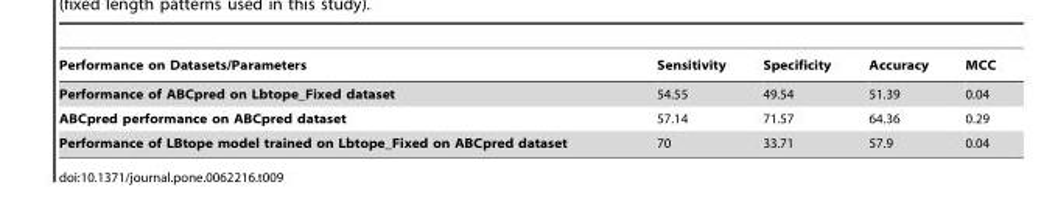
<table><thead><tr><td>Performance on Datasets/Parameters</td><td>Sensitivity</td><td>Specificity</td><td>Accuracy</td><td>MCC</td></tr></thead><tbody><tr><td>Performance of ABCpred on Lbtope_Fixed dataset</td><td>54.55</td><td>49.54</td><td>51.39</td><td>0.04</td></tr><tr><td>ABCpred performance on ABCpred dataset</td><td>57.14</td><td>71.57</td><td>64.36</td><td>0.29</td></tr><tr><td>Performance of LBtope model trained on Lbtope_Fixed on ABCpred dataset</td><td>70</td><td>33.71</td><td>57.9</td><td>0.04</td></tr></tbody></table>